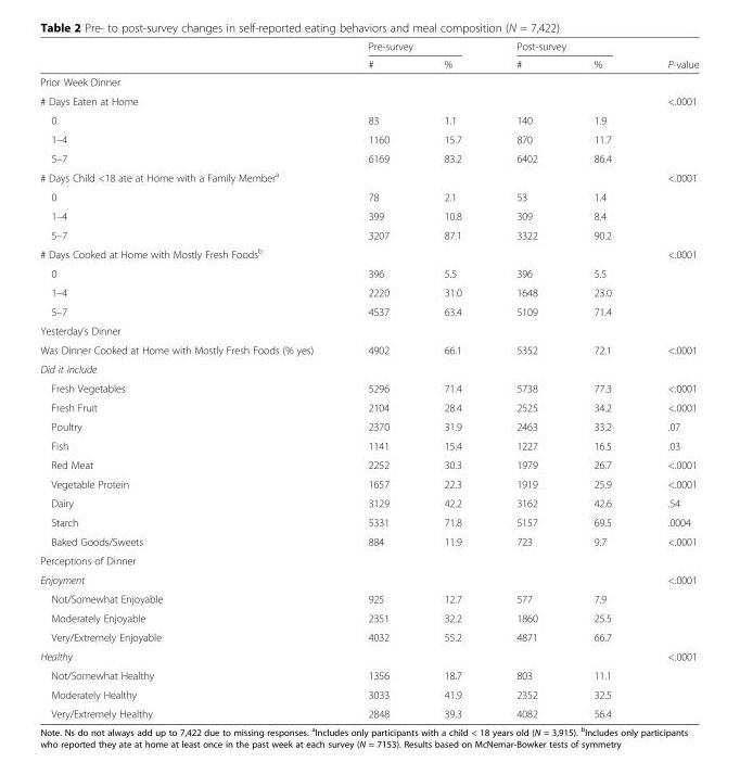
<table><thead><tr><td rowspan="2"></td><td colspan="2">Pre-survey</td><td colspan="2">Post-survey</td><td rowspan="2">P-value</td></tr><tr><td>#</td><td>%</td><td>#</td><td>%</td></tr></thead><tbody><tr><td colspan="6">Prior Week Dinner</td></tr><tr><td># Days Eaten at Home</td><td></td><td></td><td></td><td></td><td>&lt;.0001</td></tr><tr><td>0</td><td>83</td><td>1.1</td><td>140</td><td>1.9</td><td></td></tr><tr><td>1–4</td><td>1160</td><td>15.7</td><td>870</td><td>11.7</td><td></td></tr><tr><td>5–7</td><td>6169</td><td>83.2</td><td>6402</td><td>86.4</td><td></td></tr><tr><td># Days Child &lt;18 ate at Home with a Family Member<sup>a</sup></td><td></td><td></td><td></td><td></td><td>&lt;.0001</td></tr><tr><td>0</td><td>78</td><td>2.1</td><td>53</td><td>1.4</td><td></td></tr><tr><td>1–4</td><td>399</td><td>10.8</td><td>309</td><td>8.4</td><td></td></tr><tr><td>5–7</td><td>3207</td><td>87.1</td><td>3322</td><td>90.2</td><td></td></tr><tr><td># Days Cooked at Home with Mostly Fresh Foods<sup>b</sup></td><td></td><td></td><td></td><td></td><td>&lt;.0001</td></tr><tr><td>0</td><td>396</td><td>5.5</td><td>396</td><td>5.5</td><td></td></tr><tr><td>1–4</td><td>2220</td><td>31.0</td><td>1648</td><td>23.0</td><td></td></tr><tr><td>5–7</td><td>4537</td><td>63.4</td><td>5109</td><td>71.4</td><td></td></tr><tr><td colspan="6">Yesterday’s Dinner</td></tr><tr><td>Was Dinner Cooked at Home with Mostly Fresh Foods (% yes)</td><td>4902</td><td>66.1</td><td>5352</td><td>72.1</td><td>&lt;.0001</td></tr><tr><td colspan="6">Did it include</td></tr><tr><td>Fresh Vegetables</td><td>5296</td><td>71.4</td><td>5738</td><td>77.3</td><td>&lt;.0001</td></tr><tr><td>Fresh Fruit</td><td>2104</td><td>28.4</td><td>2525</td><td>34.2</td><td>&lt;.0001</td></tr><tr><td>Poultry</td><td>2370</td><td>31.9</td><td>2463</td><td>33.2</td><td>.07</td></tr><tr><td>Fish</td><td>1141</td><td>15.4</td><td>1227</td><td>16.5</td><td>.03</td></tr><tr><td>Red Meat</td><td>2252</td><td>30.3</td><td>1979</td><td>26.7</td><td>&lt;.0001</td></tr><tr><td>Vegetable Protein</td><td>1657</td><td>22.3</td><td>1919</td><td>25.9</td><td>&lt;.0001</td></tr><tr><td>Dairy</td><td>3129</td><td>42.2</td><td>3162</td><td>42.6</td><td>.54</td></tr><tr><td>Starch</td><td>5331</td><td>71.8</td><td>5157</td><td>69.5</td><td>.0004</td></tr><tr><td>Baked Goods/Sweets</td><td>884</td><td>11.9</td><td>723</td><td>9.7</td><td>&lt;.0001</td></tr><tr><td colspan="6">Perceptions of Dinner</td></tr><tr><td>Enjoyment</td><td></td><td></td><td></td><td></td><td>&lt;.0001</td></tr><tr><td>Not/Somewhat Enjoyable</td><td>925</td><td>12.7</td><td>577</td><td>7.9</td><td></td></tr><tr><td>Moderately Enjoyable</td><td>2351</td><td>32.2</td><td>1860</td><td>25.5</td><td></td></tr><tr><td>Very/Extremely Enjoyable</td><td>4032</td><td>55.2</td><td>4871</td><td>66.7</td><td></td></tr><tr><td>Healthy</td><td></td><td></td><td></td><td></td><td>&lt;.0001</td></tr><tr><td>Not/Somewhat Healthy</td><td>1356</td><td>18.7</td><td>803</td><td>11.1</td><td></td></tr><tr><td>Moderately Healthy</td><td>3033</td><td>41.9</td><td>2352</td><td>32.5</td><td></td></tr><tr><td>Very/Extremely Healthy</td><td>2848</td><td>39.3</td><td>4082</td><td>56.4</td><td></td></tr></tbody></table>